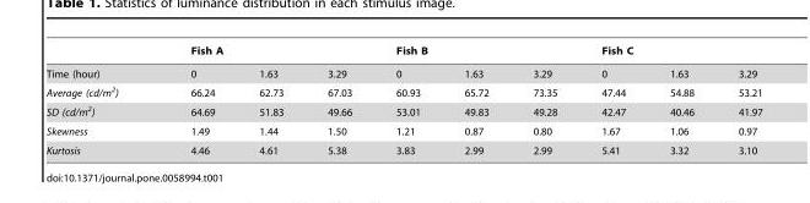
<table><thead><tr><td rowspan="2">Time (hour)</td><td colspan="3">Fish A</td><td colspan="3">Fish B</td><td colspan="3">Fish C</td></tr><tr><td>0</td><td>1.63</td><td>3.29</td><td>0</td><td>1.63</td><td>3.29</td><td>0</td><td>1.63</td><td>3.29</td></tr></thead><tbody><tr><td>Average (cd/m<sup>2</sup>)</td><td>66.24</td><td>62.73</td><td>67.03</td><td>60.93</td><td>65.72</td><td>73.35</td><td>47.44</td><td>54.88</td><td>53.21</td></tr><tr><td>SD (cd/m<sup>2</sup>)</td><td>64.69</td><td>51.83</td><td>49.66</td><td>53.01</td><td>49.83</td><td>49.28</td><td>42.47</td><td>40.46</td><td>41.97</td></tr><tr><td>Skewness</td><td>1.49</td><td>1.44</td><td>1.50</td><td>1.21</td><td>0.87</td><td>0.80</td><td>1.67</td><td>1.06</td><td>0.97</td></tr><tr><td>Kurtosis</td><td>4.46</td><td>4.61</td><td>5.38</td><td>3.83</td><td>2.99</td><td>2.99</td><td>5.41</td><td>3.32</td><td>3.10</td></tr></tbody></table>